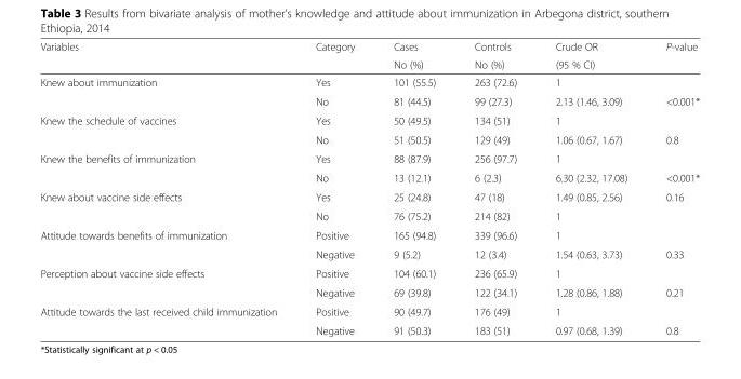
<table><thead><tr><td rowspan="2">Variables</td><td rowspan="2">Category</td><td rowspan="2">Cases No (%)</td><td rowspan="2">Controls No (%)</td><td rowspan="2">Crude OR (95 % CI)</td><td rowspan="2">P-value</td></tr><tr></tr></thead><tbody><tr><td rowspan="2">Knew about immunization</td><td>Yes</td><td>101 (55.5)</td><td>263 (72.6)</td><td>1</td><td></td></tr><tr><td>No</td><td>81 (44.5)</td><td>99 (27.3)</td><td>2.13 (1.46, 3.09)</td><td>&lt;0.001*</td></tr><tr><td rowspan="2">Knew the schedule of vaccines</td><td>Yes</td><td>50 (49.5)</td><td>134 (51)</td><td>1</td><td></td></tr><tr><td>No</td><td>51 (50.5)</td><td>129 (49)</td><td>1.06 (0.67, 1.67)</td><td>0.8</td></tr><tr><td rowspan="2">Knew the benefits of immunization</td><td>Yes</td><td>88 (87.9)</td><td>256 (97.7)</td><td>1</td><td></td></tr><tr><td>No</td><td>13 (12.1)</td><td>6 (2.3)</td><td>6.30 (2.32, 17.08)</td><td>&lt;0.001*</td></tr><tr><td rowspan="2">Knew about vaccine side effects</td><td>Yes</td><td>25 (24.8)</td><td>47 (18)</td><td>1.49 (0.85, 2.56)</td><td rowspan="2">0.16</td></tr><tr><td>No</td><td>76 (75.2)</td><td>214 (82)</td><td>1</td></tr><tr><td rowspan="2">Attitude towards benefits of immunization</td><td>Positive</td><td>165 (94.8)</td><td>339 (96.6)</td><td>1</td><td></td></tr><tr><td>Negative</td><td>9 (5.2)</td><td>12 (3.4)</td><td>1.54 (0.63, 3.73)</td><td>0.33</td></tr><tr><td rowspan="2">Perception about vaccine side effects</td><td>Positive</td><td>104 (60.1)</td><td>236 (65.9)</td><td>1</td><td></td></tr><tr><td>Negative</td><td>69 (39.8)</td><td>122 (34.1)</td><td>1.28 (0.86, 1.88)</td><td>0.21</td></tr><tr><td rowspan="2">Attitude towards the last received child immunization</td><td>Positive</td><td>90 (49.7)</td><td>176 (49)</td><td>1</td><td></td></tr><tr><td>Negative</td><td>91 (50.3)</td><td>183 (51)</td><td>0.97 (0.68, 1.39)</td><td>0.8</td></tr></tbody></table>